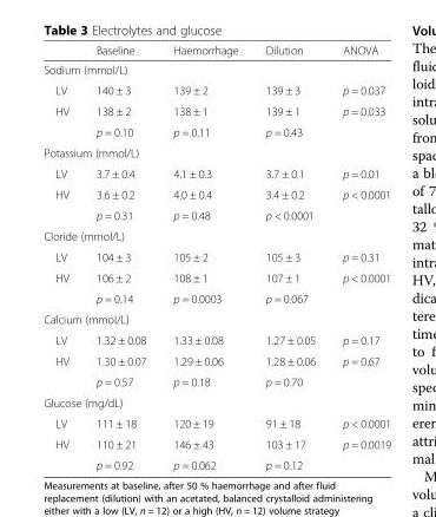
<table><thead><tr><td></td><td>Baseline</td><td>Haemorrhage</td><td>Dilution</td><td>ANOVA</td></tr></thead><tbody><tr><td colspan="5">Sodium (mmol/L)</td></tr><tr><td>LV</td><td>140 ± 3</td><td>139 ± 2</td><td>139 ± 3</td><td>p = 0.037</td></tr><tr><td rowspan="2">HV</td><td>138 ± 2</td><td>138 ± 1</td><td>139 ± 1</td><td>p = 0.033</td></tr><tr><td>p = 0.10</td><td>p = 0.11</td><td>p = 0.43</td><td></td></tr><tr><td colspan="5">Potassium (mmol/L)</td></tr><tr><td>LV</td><td>3.7 ± 0.4</td><td>4.1 ± 0.3</td><td>3.7 ± 0.1</td><td>p = 0.01</td></tr><tr><td rowspan="2">HV</td><td>3.6 ± 0.2</td><td>4.0 ± 0.4</td><td>3.4 ± 0.2</td><td>p &lt; 0.0001</td></tr><tr><td>p = 0.31</td><td>p = 0.48</td><td>p &lt; 0.0001</td><td></td></tr><tr><td colspan="5">Cloride (mmol/L)</td></tr><tr><td>LV</td><td>104 ± 3</td><td>105 ± 2</td><td>105 ± 3</td><td>p = 0.31</td></tr><tr><td rowspan="2">HV</td><td>106 ± 2</td><td>108 ± 1</td><td>107 ± 1</td><td>p &lt; 0.0001</td></tr><tr><td>p = 0.14</td><td>p = 0.0003</td><td>p = 0.067</td><td></td></tr><tr><td colspan="5">Calcium (mmol/L)</td></tr><tr><td>LV</td><td>1.32 ± 0.08</td><td>1.33 ± 0.08</td><td>1.27 ± 0.05</td><td>p = 0.17</td></tr><tr><td rowspan="2">HV</td><td>1.30 ± 0.07</td><td>1.29 ± 0.06</td><td>1.28 ± 0.06</td><td>p = 0.67</td></tr><tr><td>p = 0.57</td><td>p = 0.18</td><td>p = 0.70</td><td></td></tr><tr><td colspan="5">Glucose (mg/dL)</td></tr><tr><td>LV</td><td>111 ± 18</td><td>120 ± 19</td><td>91 ± 18</td><td>p &lt; 0.0001</td></tr><tr><td rowspan="2">HV</td><td>110 ± 21</td><td>146 ± 43</td><td>103 ± 17</td><td>p = 0.0019</td></tr><tr><td>p = 0.92</td><td>p = 0.062</td><td>p = 0.12</td><td></td></tr></tbody></table>